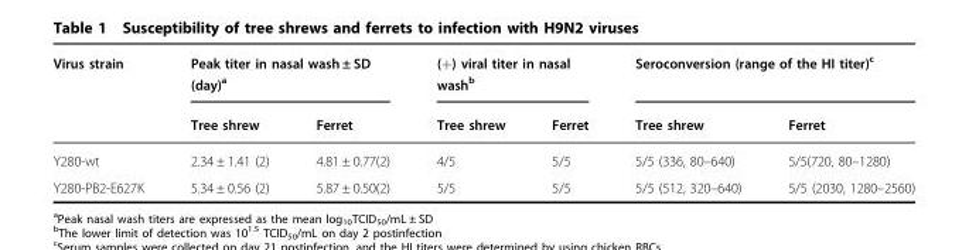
<table><thead><tr><td rowspan="2">Virus strain</td><td colspan="2">Peak titer in nasal wash ± SD (day)<sup>a</sup></td><td colspan="2">(+) viral titer in nasal wash<sup>b</sup></td><td colspan="2">Seroconversion (range of the HI titer)<sup>c</sup></td></tr><tr><td>Tree shrew</td><td>Ferret</td><td>Tree shrew</td><td>Ferret</td><td>Tree shrew</td><td>Ferret</td></tr></thead><tbody><tr><td>Y280-wt</td><td>2.34 ± 1.41 (2)</td><td>4.81 ± 0.77(2)</td><td>4/5</td><td>5/5</td><td>5/5 (336, 80–640)</td><td>5/5(720, 80–1280)</td></tr><tr><td>Y280-PB2-E627K</td><td>5.34 ± 0.56 (2)</td><td>5.87 ± 0.50(2)</td><td>5/5</td><td>5/5</td><td>5/5 (512, 320–640)</td><td>5/5 (2030, 1280–2560)</td></tr></tbody></table>